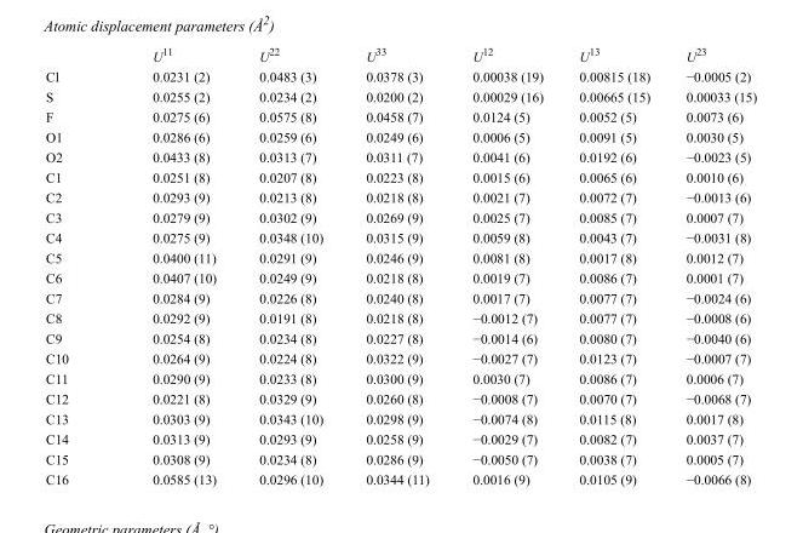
<table><thead><tr><td></td><td>U<sup>11</sup></td><td>U<sup>22</sup></td><td>U<sup>33</sup></td><td>U<sup>12</sup></td><td>U<sup>13</sup></td><td>U<sup>23</sup></td></tr></thead><tbody><tr><td>Cl</td><td>0.0231 (2)</td><td>0.0483 (3)</td><td>0.0378 (3)</td><td>0.00038 (19)</td><td>0.00815 (18)</td><td>−0.0005 (2)</td></tr><tr><td>S</td><td>0.0255 (2)</td><td>0.0234 (2)</td><td>0.0200 (2)</td><td>0.00029 (16)</td><td>0.00665 (15)</td><td>0.00033 (15)</td></tr><tr><td>F</td><td>0.0275 (6)</td><td>0.0575 (8)</td><td>0.0458 (7)</td><td>0.0124 (5)</td><td>0.0052 (5)</td><td>0.0073 (6)</td></tr><tr><td>O1</td><td>0.0286 (6)</td><td>0.0259 (6)</td><td>0.0249 (6)</td><td>0.0006 (5)</td><td>0.0091 (5)</td><td>0.0030 (5)</td></tr><tr><td>O2</td><td>0.0433 (8)</td><td>0.0313 (7)</td><td>0.0311 (7)</td><td>0.0041 (6)</td><td>0.0192 (6)</td><td>−0.0023 (5)</td></tr><tr><td>C1</td><td>0.0251 (8)</td><td>0.0207 (8)</td><td>0.0223 (8)</td><td>0.0015 (6)</td><td>0.0065 (6)</td><td>0.0010 (6)</td></tr><tr><td>C2</td><td>0.0293 (9)</td><td>0.0213 (8)</td><td>0.0218 (8)</td><td>0.0021 (7)</td><td>0.0072 (7)</td><td>−0.0013 (6)</td></tr><tr><td>C3</td><td>0.0279 (9)</td><td>0.0302 (9)</td><td>0.0269 (9)</td><td>0.0025 (7)</td><td>0.0085 (7)</td><td>0.0007 (7)</td></tr><tr><td>C4</td><td>0.0275 (9)</td><td>0.0348 (10)</td><td>0.0315 (9)</td><td>0.0059 (8)</td><td>0.0043 (7)</td><td>−0.0031 (8)</td></tr><tr><td>C5</td><td>0.0400 (11)</td><td>0.0291 (9)</td><td>0.0246 (9)</td><td>0.0081 (8)</td><td>0.0017 (8)</td><td>0.0012 (7)</td></tr><tr><td>C6</td><td>0.0407 (10)</td><td>0.0249 (9)</td><td>0.0218 (8)</td><td>0.0019 (7)</td><td>0.0086 (7)</td><td>0.0001 (7)</td></tr><tr><td>C7</td><td>0.0284 (9)</td><td>0.0226 (8)</td><td>0.0240 (8)</td><td>0.0017 (7)</td><td>0.0077 (7)</td><td>−0.0024 (6)</td></tr><tr><td>C8</td><td>0.0292 (9)</td><td>0.0191 (8)</td><td>0.0218 (8)</td><td>−0.0012 (7)</td><td>0.0077 (7)</td><td>−0.0008 (6)</td></tr><tr><td>C9</td><td>0.0254 (8)</td><td>0.0234 (8)</td><td>0.0227 (8)</td><td>−0.0014 (6)</td><td>0.0080 (7)</td><td>−0.0040 (6)</td></tr><tr><td>C10</td><td>0.0264 (9)</td><td>0.0224 (8)</td><td>0.0322 (9)</td><td>−0.0027 (7)</td><td>0.0123 (7)</td><td>−0.0007 (7)</td></tr><tr><td>C11</td><td>0.0290 (9)</td><td>0.0233 (8)</td><td>0.0300 (9)</td><td>0.0030 (7)</td><td>0.0086 (7)</td><td>0.0006 (7)</td></tr><tr><td>C12</td><td>0.0221 (8)</td><td>0.0329 (9)</td><td>0.0260 (8)</td><td>−0.0008 (7)</td><td>0.0070 (7)</td><td>−0.0068 (7)</td></tr><tr><td>C13</td><td>0.0303 (9)</td><td>0.0343 (10)</td><td>0.0298 (9)</td><td>−0.0074 (8)</td><td>0.0115 (8)</td><td>0.0017 (8)</td></tr><tr><td>C14</td><td>0.0313 (9)</td><td>0.0293 (9)</td><td>0.0258 (9)</td><td>−0.0029 (7)</td><td>0.0082 (7)</td><td>0.0037 (7)</td></tr><tr><td>C15</td><td>0.0308 (9)</td><td>0.0234 (8)</td><td>0.0286 (9)</td><td>−0.0050 (7)</td><td>0.0038 (7)</td><td>0.0005 (7)</td></tr><tr><td>C16</td><td>0.0585 (13)</td><td>0.0296 (10)</td><td>0.0344 (11)</td><td>0.0016 (9)</td><td>0.0105 (9)</td><td>−0.0066 (8)</td></tr></tbody></table>